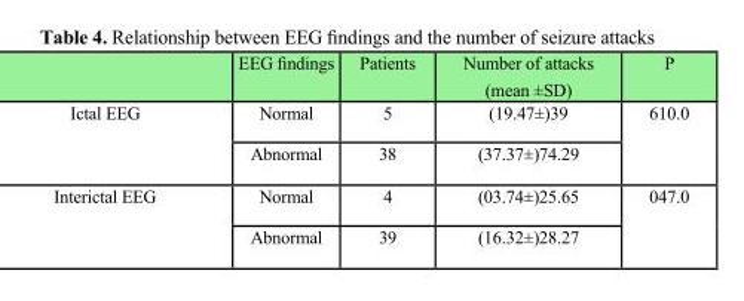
<table><thead><tr><td></td><td>EEG findings</td><td>Patients</td><td>Number of attacks (mean ±SD)</td><td>P</td></tr></thead><tbody><tr><td rowspan="2">Ictal EEG</td><td>Normal</td><td>5</td><td>(19.47±)39</td><td rowspan="2">610.0</td></tr><tr><td>Abnormal</td><td>38</td><td>(37.37±)74.29</td></tr><tr><td rowspan="2">Interictal EEG</td><td>Normal</td><td>4</td><td>(03.74±)25.65</td><td rowspan="2">047.0</td></tr><tr><td>Abnormal</td><td>39</td><td>(16.32±)28.27</td></tr></tbody></table>